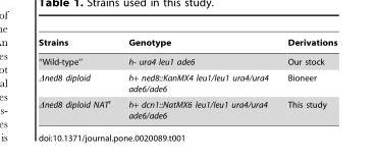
<table><thead><tr><td>Strains</td><td>Genotype</td><td>Derivations</td></tr></thead><tbody><tr><td>‘‘Wild-type’’</td><td>h- ura4 leu1 ade6</td><td>Our stock</td></tr><tr><td>Δned8 diploid</td><td>h+ ned8::KanMX4 leu1/leu1 ura4/ura4 ade6/ade6</td><td>Bioneer</td></tr><tr><td>Δned8 diploid NAT<sup>r</sup></td><td>h+ dcn1::NatMX6 leu1/leu1 ura4/ura4 ade6/ade6</td><td>This study</td></tr></tbody></table>